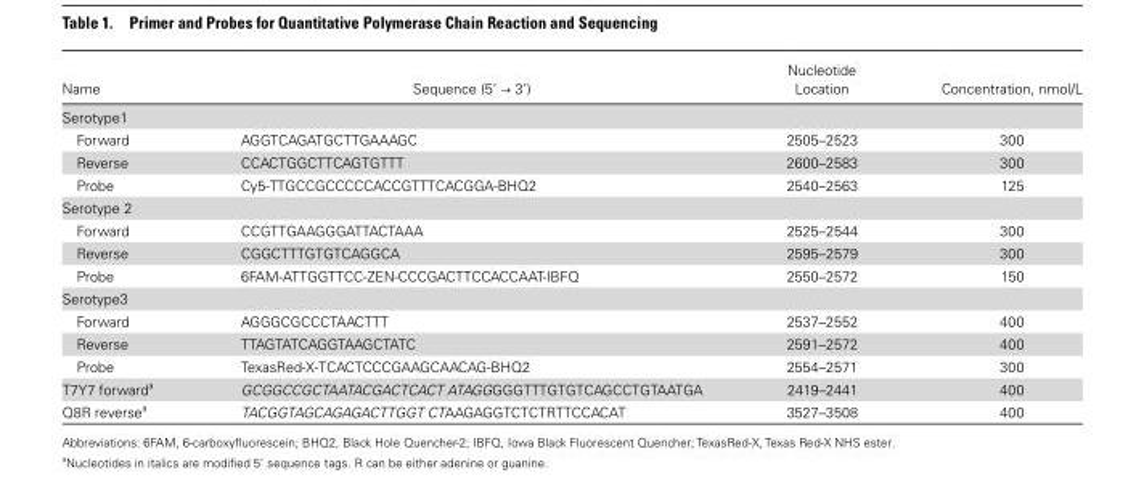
<table><thead><tr><td>Name</td><td>Sequence (5’ → 3’)</td><td>Nucleotide Location</td><td>Concentration, nmol/L</td></tr></thead><tbody><tr><td colspan="4">Serotype1</td></tr><tr><td>Forward</td><td>AGGTCAGATGCTTGAAAGC</td><td>2505–2523</td><td>300</td></tr><tr><td>Reverse</td><td>CCACTGGCTTCAGTGTTT</td><td>2600–2583</td><td>300</td></tr><tr><td>Probe</td><td>Cy5-TTGCCGCCCCCACCGTTTCACGGA-BHQ2</td><td>2540–2563</td><td>125</td></tr><tr><td colspan="4">Serotype 2</td></tr><tr><td>Forward</td><td>CCGTTGAAGGGATTACTAAA</td><td>2525–2544</td><td>300</td></tr><tr><td>Reverse</td><td>CGGCTTTGTGTCAGGCA</td><td>2595–2579</td><td>300</td></tr><tr><td>Probe</td><td>6FAM-ATTGGTTCC-ZEN-CCCGACTTCCACCAAT-IBFQ</td><td>2550–2572</td><td>150</td></tr><tr><td colspan="4">Serotype3</td></tr><tr><td>Forward</td><td>AGGGCGCCCTAACTTT</td><td>2537–2552</td><td>400</td></tr><tr><td>Reverse</td><td>TTAGTATCAGGTAAGCTATC</td><td>2591–2572</td><td>400</td></tr><tr><td>Probe</td><td>TexasRed-X-TCACTCCCGAAGCAACAG-BHQ2</td><td>2554–2571</td><td>300</td></tr><tr><td>T7Y7 forward<sup>a</sup></td><td>GCGGCCGCTAATACGACTCACT ATAGGGGGTTTGTGTCAGCCTGTAATGA</td><td>2419–2441</td><td>400</td></tr><tr><td>Q8R reverse<sup>a</sup></td><td>TACGGTAGCAGAGACTTGGT CTAAGAGGTCTCTRTTCCACAT</td><td>3527–3508</td><td>400</td></tr></tbody></table>